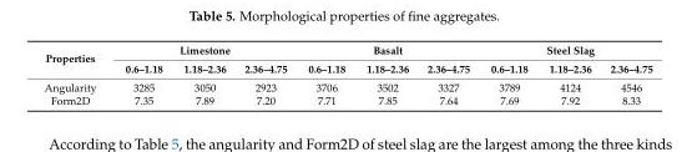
<table><thead><tr><td rowspan="2">Properties</td><td colspan="3">Limestone</td><td colspan="3">Basalt</td><td colspan="3">Steel Slag</td></tr><tr><td>0.6–1.18</td><td>1.18–2.36</td><td>2.36–4.75</td><td>0.6–1.18</td><td>1.18–2.36</td><td>2.36–4.75</td><td>0.6–1.18</td><td>1.18–2.36</td><td>2.36–4.75</td></tr></thead><tbody><tr><td>Angularity</td><td>3285</td><td>3050</td><td>2923</td><td>3706</td><td>3502</td><td>3327</td><td>3789</td><td>4124</td><td>4546</td></tr><tr><td>Form2D</td><td>7.35</td><td>7.89</td><td>7.20</td><td>7.71</td><td>7.85</td><td>7.64</td><td>7.69</td><td>7.92</td><td>8.33</td></tr></tbody></table>